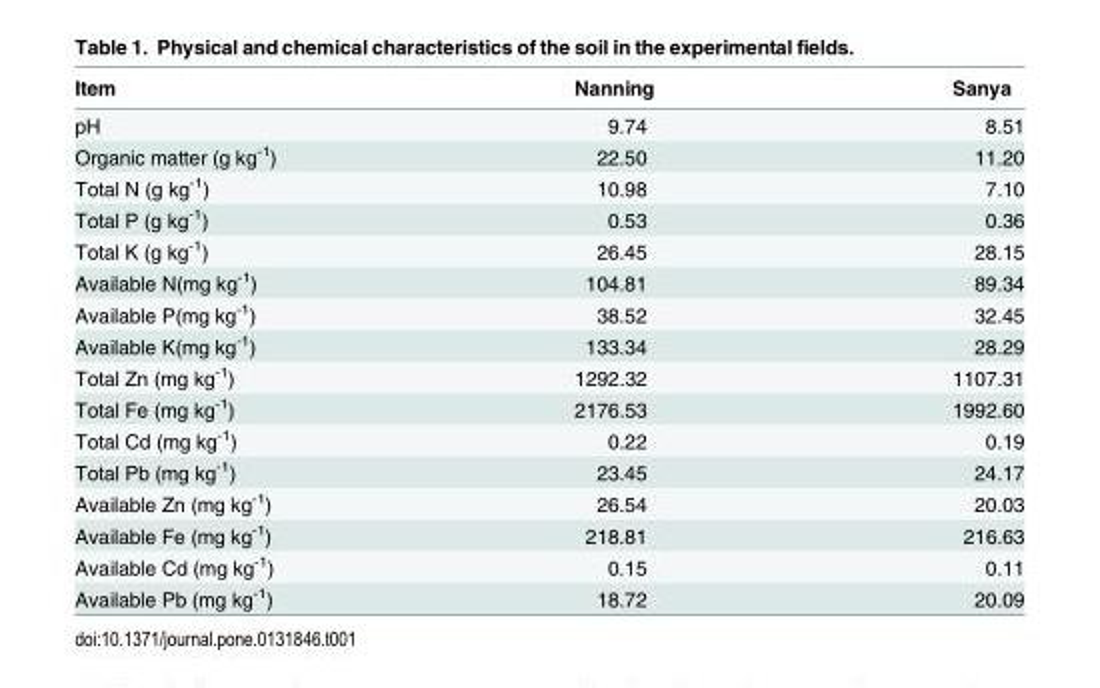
<table><thead><tr><td>Item</td><td>Nanning</td><td>Sanya</td></tr></thead><tbody><tr><td>pH</td><td>9.74</td><td>8.51</td></tr><tr><td>Organic matter (g kg<sup>-1</sup>)</td><td>22.50</td><td>11.20</td></tr><tr><td>Total N (g kg<sup>-1</sup>)</td><td>10.98</td><td>7.10</td></tr><tr><td>Total P (g kg<sup>-1</sup>)</td><td>0.53</td><td>0.36</td></tr><tr><td>Total K (g kg<sup>-1</sup>)</td><td>26.45</td><td>28.15</td></tr><tr><td>Available N(mg kg<sup>-1</sup>)</td><td>104.81</td><td>89.34</td></tr><tr><td>Available P(mg kg<sup>-1</sup>)</td><td>38.52</td><td>32.45</td></tr><tr><td>Available K(mg kg<sup>-1</sup>)</td><td>133.34</td><td>28.29</td></tr><tr><td>Total Zn (mg kg<sup>-1</sup>)</td><td>1292.32</td><td>1107.31</td></tr><tr><td>Total Fe (mg kg<sup>-1</sup>)</td><td>2176.53</td><td>1992.60</td></tr><tr><td>Total Cd (mg kg<sup>-1</sup>)</td><td>0.22</td><td>0.19</td></tr><tr><td>Total Pb (mg kg<sup>-1</sup>)</td><td>23.45</td><td>24.17</td></tr><tr><td>Available Zn (mg kg<sup>-1</sup>)</td><td>26.54</td><td>20.03</td></tr><tr><td>Available Fe (mg kg<sup>-1</sup>)</td><td>218.81</td><td>216.63</td></tr><tr><td>Available Cd (mg kg<sup>-1</sup>)</td><td>0.15</td><td>0.11</td></tr><tr><td>Available Pb (mg kg<sup>-1</sup>)</td><td>18.72</td><td>20.09</td></tr></tbody></table>